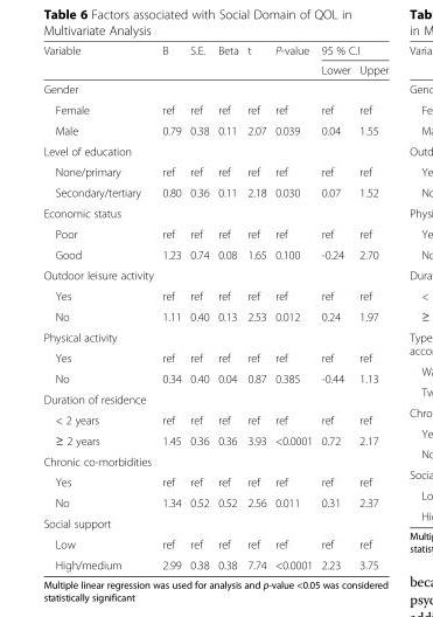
<table><thead><tr><td rowspan="2">Variable</td><td rowspan="2">B</td><td rowspan="2">S.E.</td><td rowspan="2">Beta</td><td rowspan="2">t</td><td rowspan="2">P-value</td><td colspan="2">95 % C.I</td></tr><tr><td>Lower</td><td>Upper</td></tr></thead><tbody><tr><td colspan="8">Gender</td></tr><tr><td>Female</td><td>ref</td><td>ref</td><td>ref</td><td>ref</td><td>ref</td><td>ref</td><td>ref</td></tr><tr><td>Male</td><td>0.79</td><td>0.38</td><td>0.11</td><td>2.07</td><td>0.039</td><td>0.04</td><td>1.55</td></tr><tr><td colspan="8">Level of education</td></tr><tr><td>None/primary</td><td>ref</td><td>ref</td><td>ref</td><td>ref</td><td>ref</td><td>ref</td><td>ref</td></tr><tr><td>Secondary/tertiary</td><td>0.80</td><td>0.36</td><td>0.11</td><td>2.18</td><td>0.030</td><td>0.07</td><td>1.52</td></tr><tr><td colspan="8">Economic status</td></tr><tr><td>Poor</td><td>ref</td><td>ref</td><td>ref</td><td>ref</td><td>ref</td><td>ref</td><td>ref</td></tr><tr><td>Good</td><td>1.23</td><td>0.74</td><td>0.08</td><td>1.65</td><td>0.100</td><td>-0.24</td><td>2.70</td></tr><tr><td colspan="8">Outdoor leisure activity</td></tr><tr><td>Yes</td><td>ref</td><td>ref</td><td>ref</td><td>ref</td><td>ref</td><td>ref</td><td>ref</td></tr><tr><td>No</td><td>1.11</td><td>0.40</td><td>0.13</td><td>2.53</td><td>0.012</td><td>0.24</td><td>1.97</td></tr><tr><td colspan="8">Physical activity</td></tr><tr><td>Yes</td><td>ref</td><td>ref</td><td>ref</td><td>ref</td><td>ref</td><td>ref</td><td>ref</td></tr><tr><td>No</td><td>0.34</td><td>0.40</td><td>0.04</td><td>0.87</td><td>0.385</td><td>-0.44</td><td>1.13</td></tr><tr><td colspan="8">Duration of residence</td></tr><tr><td>&lt; 2 years</td><td>ref</td><td>ref</td><td>ref</td><td>ref</td><td>ref</td><td>ref</td><td>ref</td></tr><tr><td>≥ 2 years</td><td>1.45</td><td>0.36</td><td>0.36</td><td>3.93</td><td>&lt;0.0001</td><td>0.72</td><td>2.17</td></tr><tr><td colspan="8">Chronic co-morbidities</td></tr><tr><td>Yes</td><td>ref</td><td>ref</td><td>ref</td><td>ref</td><td>ref</td><td>ref</td><td>ref</td></tr><tr><td>No</td><td>1.34</td><td>0.52</td><td>0.52</td><td>2.56</td><td>0.011</td><td>0.31</td><td>2.37</td></tr><tr><td colspan="8">Social support</td></tr><tr><td>Low</td><td>ref</td><td>ref</td><td>ref</td><td>ref</td><td>ref</td><td>ref</td><td>ref</td></tr><tr><td>High/medium</td><td>2.99</td><td>0.38</td><td>0.38</td><td>7.74</td><td>&lt;0.0001</td><td>2.23</td><td>3.75</td></tr></tbody></table>